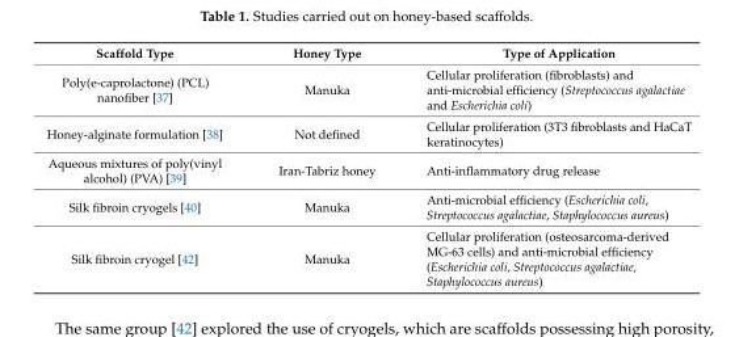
<table><thead><tr><td>Scaffold Type</td><td>Honey Type</td><td>Type of Application</td></tr></thead><tbody><tr><td>Poly(e-caprolactone) (PCL) nanofiber [37]</td><td>Manuka</td><td>Cellular proliferation (fibroblasts) and anti-microbial efficiency (Streptococcus agalactiae and Escherichia coli)</td></tr><tr><td>Honey-alginate formulation [38]</td><td>Not defined</td><td>Cellular proliferation (3T3 fibroblasts and HaCaT keratinocytes)</td></tr><tr><td>Aqueous mixtures of poly(vinyl alcohol) (PVA) [39]</td><td>Iran-Tabriz honey</td><td>Anti-inflammatory drug release</td></tr><tr><td>Silk fibroin cryogels [40]</td><td>Manuka</td><td>Anti-microbial efficiency (Escherichia coli, Streptococcus agalactiae, Staphylococcus aureus)</td></tr><tr><td>Silk fibroin cryogel [42]</td><td>Manuka</td><td>Cellular proliferation (osteosarcoma-derived MG-63 cells) and anti-microbial efficiency (Escherichia coli, Streptococcus agalactiae, Staphylococcus aureus)</td></tr></tbody></table>